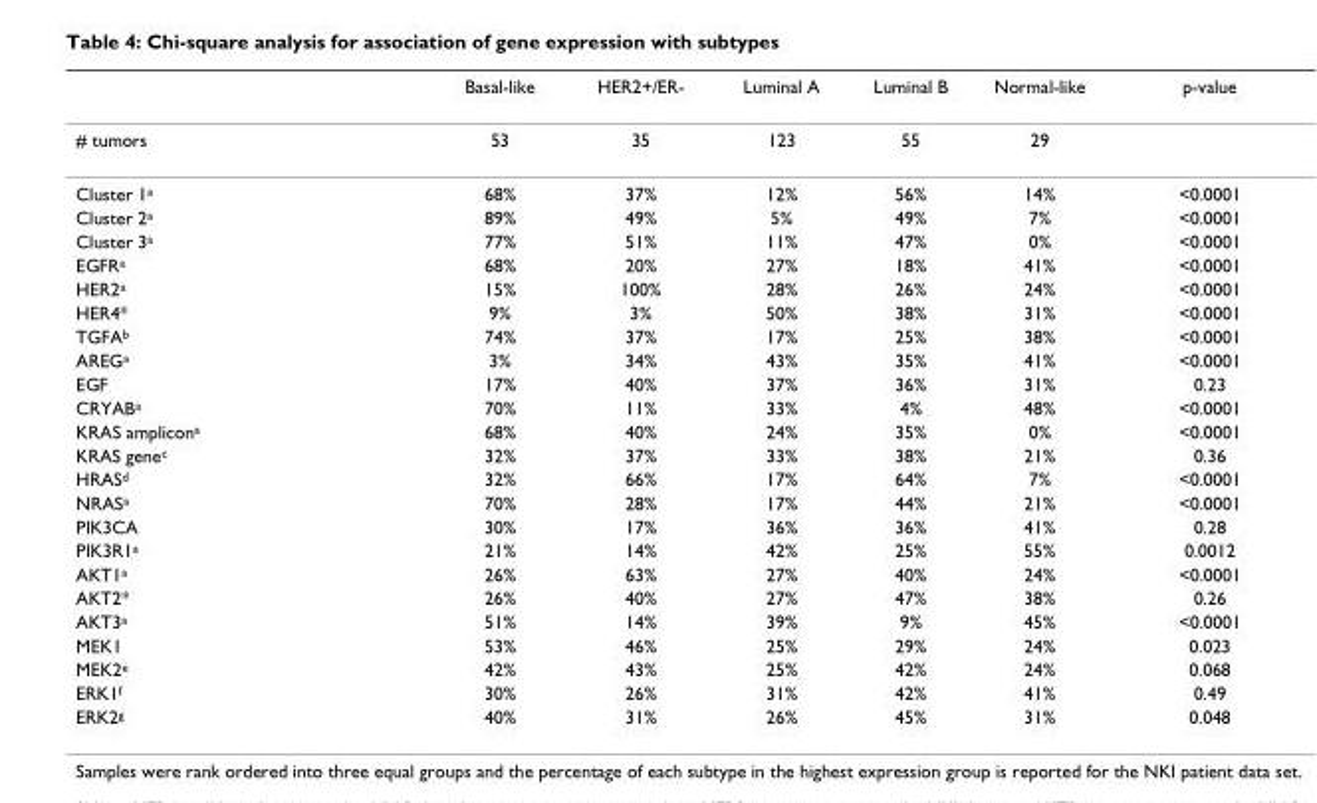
<table><thead><tr><td></td><td>Basal-like</td><td>HER2+/ER-</td><td>Luminal A</td><td>Luminal B</td><td>Normal-like</td><td>p-value</td></tr></thead><tbody><tr><td># tumors</td><td>53</td><td>35</td><td>123</td><td>55</td><td>29</td><td></td></tr><tr><td>Cluster 1<sup>a</sup></td><td>68%</td><td>37%</td><td>12%</td><td>56%</td><td>14%</td><td>&lt;0.0001</td></tr><tr><td>Cluster 2<sup>a</sup></td><td>89%</td><td>49%</td><td>5%</td><td>49%</td><td>7%</td><td>&lt;0.0001</td></tr><tr><td>Cluster 3<sup>a</sup></td><td>77%</td><td>51%</td><td>11%</td><td>47%</td><td>0%</td><td>&lt;0.0001</td></tr><tr><td>EGFR<sup>a</sup></td><td>68%</td><td>20%</td><td>27%</td><td>18%</td><td>41%</td><td>&lt;0.0001</td></tr><tr><td>HER2<sup>a</sup></td><td>15%</td><td>100%</td><td>28%</td><td>26%</td><td>24%</td><td>&lt;0.0001</td></tr><tr><td>HER4*</td><td>9%</td><td>3%</td><td>50%</td><td>38%</td><td>31%</td><td>&lt;0.0001</td></tr><tr><td>TGFA<sup>b</sup></td><td>74%</td><td>37%</td><td>17%</td><td>25%</td><td>38%</td><td>&lt;0.0001</td></tr><tr><td>AREG<sup>a</sup></td><td>3%</td><td>34%</td><td>43%</td><td>35%</td><td>41%</td><td>&lt;0.0001</td></tr><tr><td>EGF</td><td>17%</td><td>40%</td><td>37%</td><td>36%</td><td>31%</td><td>0.23</td></tr><tr><td>CRYAB<sup>a</sup></td><td>70%</td><td>11%</td><td>33%</td><td>4%</td><td>48%</td><td>&lt;0.0001</td></tr><tr><td>KRAS amplicon<sup>a</sup></td><td>68%</td><td>40%</td><td>24%</td><td>35%</td><td>0%</td><td>&lt;0.0001</td></tr><tr><td>KRAS gene<sup>c</sup></td><td>32%</td><td>37%</td><td>33%</td><td>38%</td><td>21%</td><td>0.36</td></tr><tr><td>HRAS<sup>d</sup></td><td>32%</td><td>66%</td><td>17%</td><td>64%</td><td>7%</td><td>&lt;0.0001</td></tr><tr><td>NRAS<sup>a</sup></td><td>70%</td><td>28%</td><td>17%</td><td>44%</td><td>21%</td><td>&lt;0.0001</td></tr><tr><td>PIK3CA</td><td>30%</td><td>17%</td><td>36%</td><td>36%</td><td>41%</td><td>0.28</td></tr><tr><td>PIK3R1<sup>a</sup></td><td>21%</td><td>14%</td><td>42%</td><td>25%</td><td>55%</td><td>0.0012</td></tr><tr><td>AKT1<sup>a</sup></td><td>26%</td><td>63%</td><td>27%</td><td>40%</td><td>24%</td><td>&lt;0.0001</td></tr><tr><td>AKT2*</td><td>26%</td><td>40%</td><td>27%</td><td>47%</td><td>38%</td><td>0.26</td></tr><tr><td>AKT3<sup>a</sup></td><td>51%</td><td>14%</td><td>39%</td><td>9%</td><td>45%</td><td>&lt;0.0001</td></tr><tr><td>MEK1</td><td>53%</td><td>46%</td><td>25%</td><td>29%</td><td>24%</td><td>0.023</td></tr><tr><td>MEK2<sup>e</sup></td><td>42%</td><td>43%</td><td>25%</td><td>42%</td><td>24%</td><td>0.068</td></tr><tr><td>ERK1<sup>f</sup></td><td>30%</td><td>26%</td><td>31%</td><td>42%</td><td>41%</td><td>0.49</td></tr><tr><td>ERK2<sup>g</sup></td><td>40%</td><td>31%</td><td>26%</td><td>45%</td><td>31%</td><td>0.048</td></tr></tbody></table>